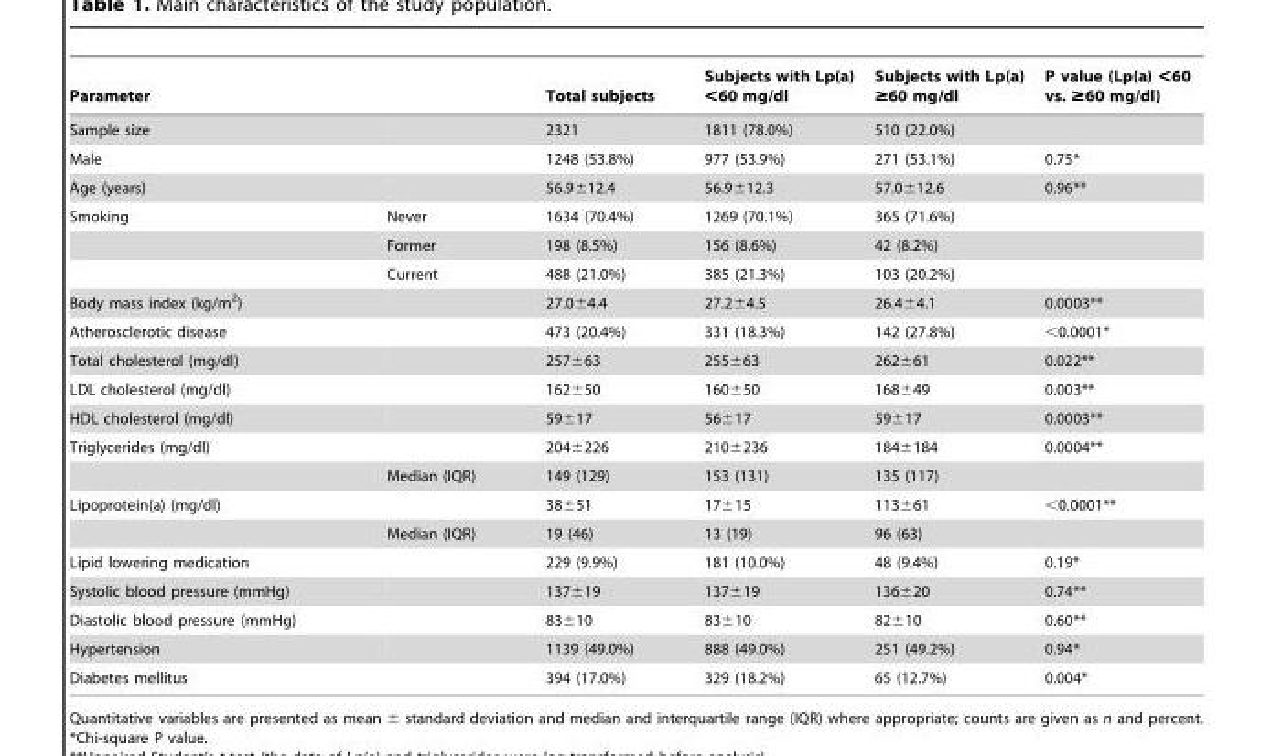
<table><thead><tr><td colspan="2">Parameter</td><td rowspan="2">Total subjects 2321</td><td rowspan="2">Subjects with Lp(a) &lt;60 mg/dl 1811 (78.0%)</td><td rowspan="2">Subjects with Lp(a) ≥60 mg/dl 510 (22.0%)</td><td rowspan="2">P value (Lp(a) &lt;60 vs. ≥60 mg/dl)</td></tr><tr><td>Sample size</td><td></td></tr></thead><tbody><tr><td>Male</td><td></td><td>1248 (53.8%)</td><td>977 (53.9%)</td><td>271 (53.1%)</td><td>0.75*</td></tr><tr><td>Age (years)</td><td></td><td>56.9±12.4</td><td>56.9±12.3</td><td>57.0±12.6</td><td>0.96**</td></tr><tr><td rowspan="3">Smoking</td><td>Never</td><td>1634 (70.4%)</td><td>1269 (70.1%)</td><td>365 (71.6%)</td><td></td></tr><tr><td>Former</td><td>198 (8.5%)</td><td>156 (8.6%)</td><td>42 (8.2%)</td><td></td></tr><tr><td>Current</td><td>488 (21.0%)</td><td>385 (21.3%)</td><td>103 (20.2%)</td><td></td></tr><tr><td>Body mass index (kg/m<sup>2</sup>)</td><td></td><td>27.0±4.4</td><td>27.2±4.5</td><td>26.4±4.1</td><td>0.0003**</td></tr><tr><td>Atherosclerotic disease</td><td></td><td>473 (20.4%)</td><td>331 (18.3%)</td><td>142 (27.8%)</td><td>&lt;0.0001*</td></tr><tr><td>Total cholesterol (mg/dl)</td><td></td><td>257±63</td><td>255±63</td><td>262±61</td><td>0.022**</td></tr><tr><td>LDL cholesterol (mg/dl)</td><td></td><td>162±50</td><td>160±50</td><td>168±49</td><td>0.003**</td></tr><tr><td>HDL cholesterol (mg/dl)</td><td></td><td>59±17</td><td>56±17</td><td>59±17</td><td>0.0003**</td></tr><tr><td rowspan="2">Triglycerides (mg/dl)</td><td></td><td>204±226</td><td>210±236</td><td>184±184</td><td>0.0004**</td></tr><tr><td>Median (IQR)</td><td>149 (129)</td><td>153 (131)</td><td>135 (117)</td><td></td></tr><tr><td rowspan="2">Lipoprotein(a) (mg/dl)</td><td></td><td>38±51</td><td>17±15</td><td>113±61</td><td>&lt;0.0001**</td></tr><tr><td>Median (IQR)</td><td>19 (46)</td><td>13 (19)</td><td>96 (63)</td><td></td></tr><tr><td>Lipid lowering medication</td><td></td><td>229 (9.9%)</td><td>181 (10.0%)</td><td>48 (9.4%)</td><td>0.19*</td></tr><tr><td>Systolic blood pressure (mmHg)</td><td></td><td>137±19</td><td>137±19</td><td>136±20</td><td>0.74**</td></tr><tr><td>Diastolic blood pressure (mmHg)</td><td></td><td>83±10</td><td>83±10</td><td>82±10</td><td>0.60**</td></tr><tr><td>Hypertension</td><td></td><td>1139 (49.0%)</td><td>888 (49.0%)</td><td>251 (49.2%)</td><td>0.94*</td></tr><tr><td>Diabetes mellitus</td><td></td><td>394 (17.0%)</td><td>329 (18.2%)</td><td>65 (12.7%)</td><td>0.004*</td></tr></tbody></table>